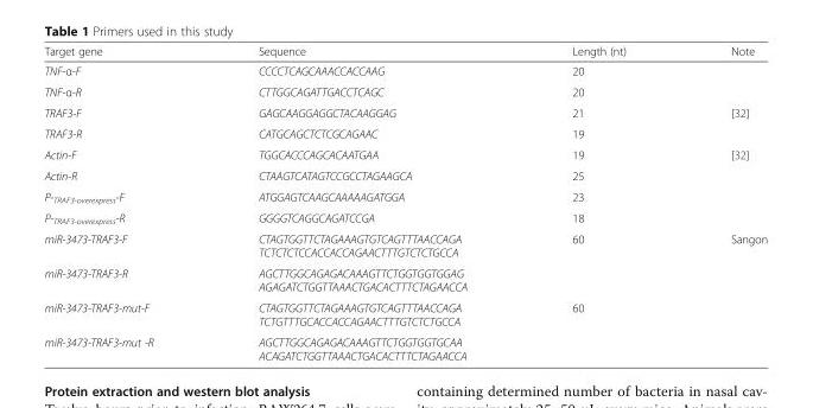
<table><thead><tr><td>Target gene</td><td>Sequence</td><td>Length (nt)</td><td>Note</td></tr></thead><tbody><tr><td>TNF-α-F</td><td>CCCCTCAGCAAACCACCAAG</td><td>20</td><td></td></tr><tr><td>TNF-α-R</td><td>CTTGGCAGATTGACCTCAGC</td><td>20</td><td></td></tr><tr><td>TRAF3-F</td><td>GAGCAAGGAGGCTACAAGGAG</td><td>21</td><td rowspan="2">[32]</td></tr><tr><td>TRAF3-R</td><td>CATGCAGCTCTCGCAGAAC</td><td>19</td></tr><tr><td>Actin-F</td><td>TGGCACCCAGCACAATGAA</td><td>19</td><td rowspan="2">[32]</td></tr><tr><td>Actin-R</td><td>CTAAGTCATAGTCCGCCTAGAAGCA</td><td>25</td></tr><tr><td>P-<sub>TRAF3-overexpress</sub>-F</td><td>ATGGAGTCAAGCAAAAAGATGGA</td><td>23</td><td rowspan="2"></td></tr><tr><td>P-<sub>TRAF3-overexpress</sub>-R</td><td>GGGGTCAGGCAGATCCGA</td><td>18</td></tr><tr><td>miR-3473-TRAF3-F</td><td>CTAGTGGTTCTAGAAAGTGTCAGTTTAACCAGA TCTCTCTCCACCACCAGAACTTTGTCTCTGCCA</td><td rowspan="2">60</td><td rowspan="4">Sangon</td></tr><tr><td>miR-3473-TRAF3-R</td><td>AGCTTGGCAGAGACAAAGTTCTGGTGGTGGAG AGAGATCTGGTTAAACTGACACTTTCTAGAACCA</td></tr><tr><td>miR-3473-TRAF3-mut-F</td><td>CTAGTGGTTCTAGAAAGTGTCAGTTTAACCAGA TCTGTTTGCACCACCAGAACTTTGTCTCTGCCA</td><td rowspan="2">60</td></tr><tr><td>miR-3473-TRAF3-mut -R</td><td>AGCTTGGCAGAGACAAAGTTCTGGTGGTGCAA ACAGATCTGGTTAAACTGACACTTTCTAGAACCA</td></tr></tbody></table>